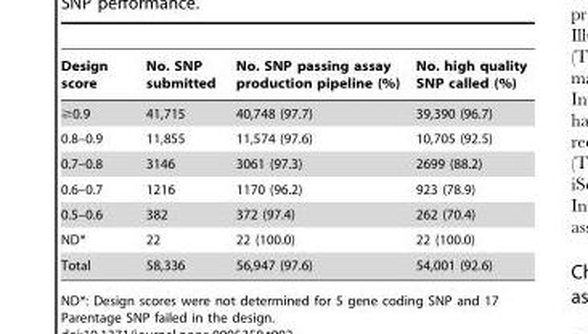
<table><thead><tr><td>Design score</td><td>No. SNP submitted</td><td>No. SNP passing assay production pipeline (%)</td><td>No. high quality SNP called (%)</td></tr></thead><tbody><tr><td>≥0.9</td><td>41,715</td><td>40,748 (97.7)</td><td>39,390 (96.7)</td></tr><tr><td>0.8–0.9</td><td>11,855</td><td>11,574 (97.6)</td><td>10,705 (92.5)</td></tr><tr><td>0.7–0.8</td><td>3146</td><td>3061 (97.3)</td><td>2699 (88.2)</td></tr><tr><td>0.6–0.7</td><td>1216</td><td>1170 (96.2)</td><td>923 (78.9)</td></tr><tr><td>0.5–0.6</td><td>382</td><td>372 (97.4)</td><td>262 (70.4)</td></tr><tr><td>ND*</td><td>22</td><td>22 (100.0)</td><td>22 (100.0)</td></tr><tr><td>Total</td><td>58,336</td><td>56,947 (97.6)</td><td>54,001 (92.6)</td></tr></tbody></table>